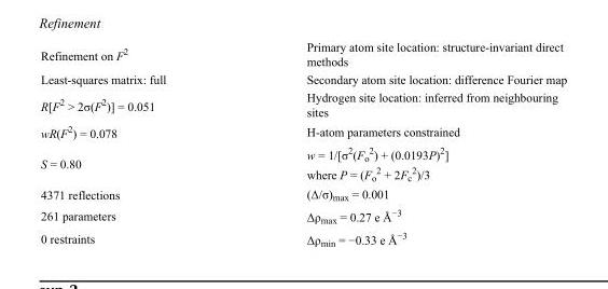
<table><tbody><tr><td>Refinement on F<sup>2</sup></td><td>Primary atom site location: structure-invariant direct methods</td></tr><tr><td>Least-squares matrix: full</td><td>Secondary atom site location: difference Fourier map</td></tr><tr><td>R[F<sup>2</sup> &gt; 2σ(F<sup>2</sup>)] = 0.051</td><td>Hydrogen site location: inferred from neighbouring sites</td></tr><tr><td>wR(F<sup>2</sup>) = 0.078</td><td>H-atom parameters constrained</td></tr><tr><td>S = 0.80</td><td>w = 1/[σ<sup>2</sup>(F<sub>o</sub> <sup>2</sup>) + (0.0193P)<sup>2</sup>] where P = (F<sub>o</sub> <sup>2</sup> + 2F<sub>c</sub> <sup>2</sup>)/3</td></tr><tr><td>4371 reflections</td><td>(Δ/σ)<sub>max</sub> = 0.001</td></tr><tr><td>261 parameters</td><td>Δρ<sub>max</sub> = 0.27 e Å<sup>−3</sup></td></tr><tr><td>0 restraints</td><td>Δρ<sub>min</sub> = −0.33 e Å<sup>−3</sup></td></tr></tbody></table>